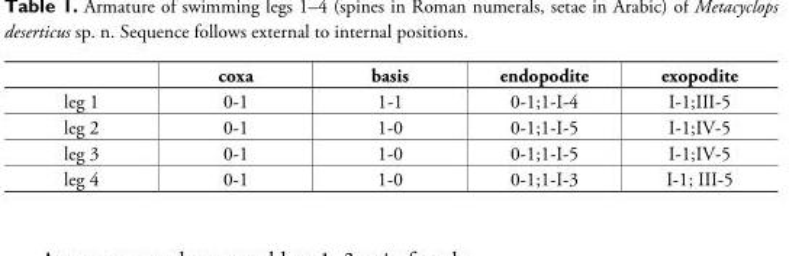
<table><thead><tr><td></td><td>coxa</td><td>basis</td><td>endopodite</td><td>exopodite</td></tr></thead><tbody><tr><td>leg 1</td><td>0-1</td><td>1-1</td><td>0-1;1-I-4</td><td>I-1;III-5</td></tr><tr><td>leg 2</td><td>0-1</td><td>1-0</td><td>0-1;1-I-5</td><td>I-1;IV-5</td></tr><tr><td>leg 3</td><td>0-1</td><td>1-0</td><td>0-1;1-I-5</td><td>I-1;IV-5</td></tr><tr><td>leg 4</td><td>0-1</td><td>1-0</td><td>0-1;1-I-3</td><td>I-1; III-5</td></tr></tbody></table>